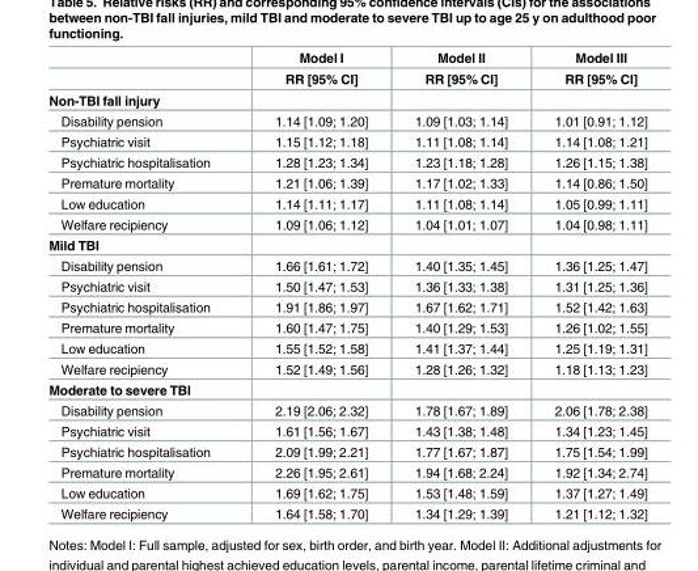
<table><thead><tr><td rowspan="2"></td><td rowspan="2">Model I RR [95% CI]</td><td rowspan="2">Model II RR [95% CI]</td><td rowspan="2">Model III RR [95% CI]</td></tr><tr></tr></thead><tbody><tr><td colspan="4">Non-TBI fall injury</td></tr><tr><td>Disability pension</td><td>1.14 [1.09; 1.20]</td><td>1.09 [1.03; 1.14]</td><td>1.01 [0.91; 1.12]</td></tr><tr><td>Psychiatric visit</td><td>1.15 [1.12; 1.18]</td><td>1.11 [1.08; 1.14]</td><td>1.14 [1.08; 1.21]</td></tr><tr><td>Psychiatric hospitalisation</td><td>1.28 [1.23; 1.34]</td><td>1.23 [1.18; 1.28]</td><td>1.26 [1.15; 1.38]</td></tr><tr><td>Premature mortality</td><td>1.21 [1.06; 1.39]</td><td>1.17 [1.02; 1.33]</td><td>1.14 [0.86; 1.50]</td></tr><tr><td>Low education</td><td>1.14 [1.11; 1.17]</td><td>1.11 [1.08; 1.14]</td><td>1.05 [0.99; 1.11]</td></tr><tr><td>Welfare recipiency</td><td>1.09 [1.06; 1.12]</td><td>1.04 [1.01; 1.07]</td><td>1.04 [0.98; 1.11]</td></tr><tr><td colspan="4">Mild TBI</td></tr><tr><td>Disability pension</td><td>1.66 [1.61; 1.72]</td><td>1.40 [1.35; 1.45]</td><td>1.36 [1.25; 1.47]</td></tr><tr><td>Psychiatric visit</td><td>1.50 [1.47; 1.53]</td><td>1.36 [1.33; 1.38]</td><td>1.31 [1.25; 1.36]</td></tr><tr><td>Psychiatric hospitalisation</td><td>1.91 [1.86; 1.97]</td><td>1.67 [1.62; 1.71]</td><td>1.52 [1.42; 1.63]</td></tr><tr><td>Premature mortality</td><td>1.60 [1.47; 1.75]</td><td>1.40 [1.29; 1.53]</td><td>1.26 [1.02; 1.55]</td></tr><tr><td>Low education</td><td>1.55 [1.52; 1.58]</td><td>1.41 [1.37; 1.44]</td><td>1.25 [1.19; 1.31]</td></tr><tr><td>Welfare recipiency</td><td>1.52 [1.49; 1.56]</td><td>1.28 [1.26; 1.32]</td><td>1.18 [1.13; 1.23]</td></tr><tr><td colspan="4">Moderate to severe TBI</td></tr><tr><td>Disability pension</td><td>2.19 [2.06; 2.32]</td><td>1.78 [1.67; 1.89]</td><td>2.06 [1.78; 2.38]</td></tr><tr><td>Psychiatric visit</td><td>1.61 [1.56; 1.67]</td><td>1.43 [1.38; 1.48]</td><td>1.34 [1.23; 1.45]</td></tr><tr><td>Psychiatric hospitalisation</td><td>2.09 [1.99; 2.21]</td><td>1.77 [1.67; 1.87]</td><td>1.75 [1.54; 1.99]</td></tr><tr><td>Premature mortality</td><td>2.26 [1.95; 2.61]</td><td>1.94 [1.68; 2.24]</td><td>1.92 [1.34; 2.74]</td></tr><tr><td>Low education</td><td>1.69 [1.62; 1.75]</td><td>1.53 [1.48; 1.59]</td><td>1.37 [1.27; 1.49]</td></tr><tr><td>Welfare recipiency</td><td>1.64 [1.58; 1.70]</td><td>1.34 [1.29; 1.39]</td><td>1.21 [1.12; 1.32]</td></tr></tbody></table>